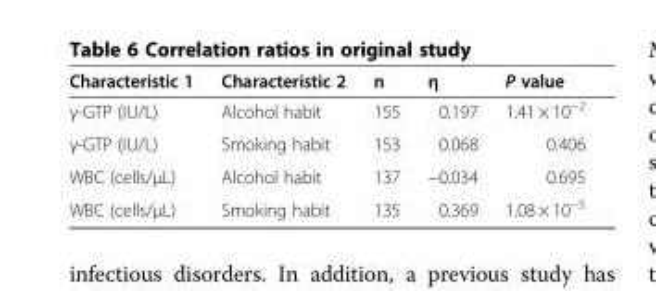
<table><thead><tr><td>Characteristic 1</td><td>Characteristic 2</td><td>n</td><td>η</td><td>P value</td></tr></thead><tbody><tr><td>γ-GTP (IU/L)</td><td>Alcohol habit</td><td>155</td><td>0.197</td><td>1.41 × 10<sup>−2</sup></td></tr><tr><td>γ-GTP (IU/L)</td><td>Smoking habit</td><td>153</td><td>0.068</td><td>0.406</td></tr><tr><td>WBC (cells/μL)</td><td>Alcohol habit</td><td>137</td><td>−0.034</td><td>0.695</td></tr><tr><td>WBC (cells/μL)</td><td>Smoking habit</td><td>135</td><td>0.369</td><td>1.08 × 10<sup>−5</sup></td></tr></tbody></table>